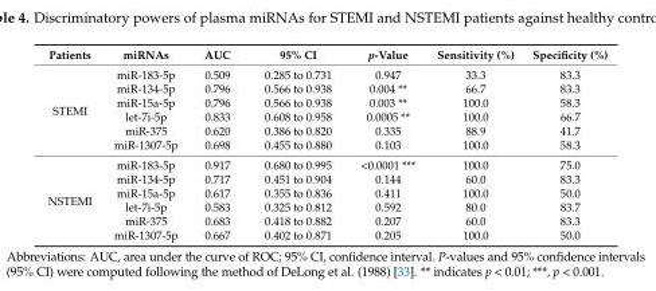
<table><thead><tr><td>Patients</td><td>miRNAs</td><td>AUC</td><td>95% CI</td><td>p-Value</td><td>Sensitivity (%)</td><td>Specificity (%)</td></tr></thead><tbody><tr><td rowspan="6">STEMI</td><td>miR-183-5p</td><td>0.509</td><td>0.285 to 0.731</td><td>0.947</td><td>33.3</td><td>83.3</td></tr><tr><td>miR-134-5p</td><td>0.796</td><td>0.566 to 0.938</td><td>0.004 **</td><td>66.7</td><td>83.3</td></tr><tr><td>miR-15a-5p</td><td>0.796</td><td>0.566 to 0.938</td><td>0.003 **</td><td>100.0</td><td>58.3</td></tr><tr><td>let-7i-5p</td><td>0.833</td><td>0.608 to 0.958</td><td>0.0005 **</td><td>100.0</td><td>66.7</td></tr><tr><td>miR-375</td><td>0.620</td><td>0.386 to 0.820</td><td>0.335</td><td>88.9</td><td>41.7</td></tr><tr><td>miR-1307-5p</td><td>0.698</td><td>0.455 to 0.880</td><td>0.103</td><td>100.0</td><td>58.3</td></tr><tr><td rowspan="6">NSTEMI</td><td>miR-183-5p</td><td>0.917</td><td>0.680 to 0.995</td><td>&lt;0.0001 ***</td><td>100.0</td><td>75.0</td></tr><tr><td>miR-134-5p</td><td>0.717</td><td>0.451 to 0.904</td><td>0.144</td><td>60.0</td><td>83.3</td></tr><tr><td>miR-15a-5p</td><td>0.617</td><td>0.355 to 0.836</td><td>0.411</td><td>100.0</td><td>50.0</td></tr><tr><td>let-7i-5p</td><td>0.583</td><td>0.325 to 0.812</td><td>0.592</td><td>80.0</td><td>83.7</td></tr><tr><td>miR-375</td><td>0.683</td><td>0.418 to 0.882</td><td>0.207</td><td>60.0</td><td>83.3</td></tr><tr><td>miR-1307-5p</td><td>0.667</td><td>0.402 to 0.871</td><td>0.205</td><td>100.0</td><td>50.0</td></tr></tbody></table>